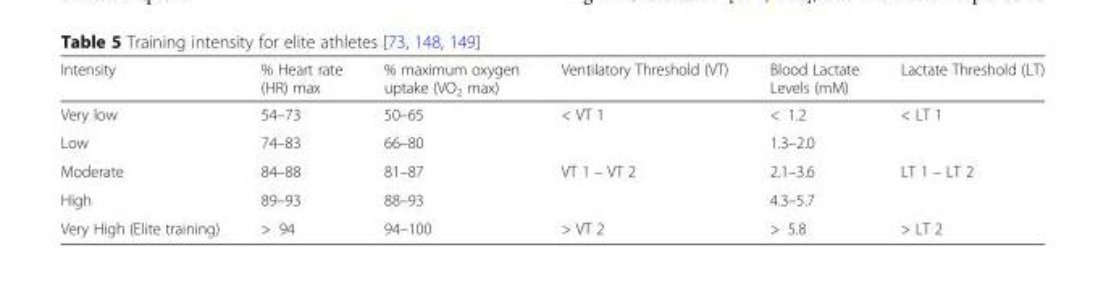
<table><thead><tr><td>Intensity</td><td>% Heart rate (HR) max</td><td>% maximum oxygen uptake (VO<sub>2</sub> max)</td><td>Ventilatory Threshold (VT)</td><td>Blood Lactate Levels (mM)</td><td>Lactate Threshold (LT)</td></tr></thead><tbody><tr><td>Very low</td><td>54–73</td><td>50–65</td><td>&lt; VT 1</td><td>&lt; 1.2</td><td>&lt; LT 1</td></tr><tr><td>Low</td><td>74–83</td><td>66–80</td><td></td><td>1.3–2.0</td><td></td></tr><tr><td>Moderate</td><td>84–88</td><td>81–87</td><td>VT 1 – VT 2</td><td>2.1–3.6</td><td>LT 1 – LT 2</td></tr><tr><td>High</td><td>89–93</td><td>88–93</td><td></td><td>4.3–5.7</td><td></td></tr><tr><td>Very High (Elite training)</td><td>&gt; 94</td><td>94–100</td><td>&gt; VT 2</td><td>&gt; 5.8</td><td>&gt; LT 2</td></tr></tbody></table>